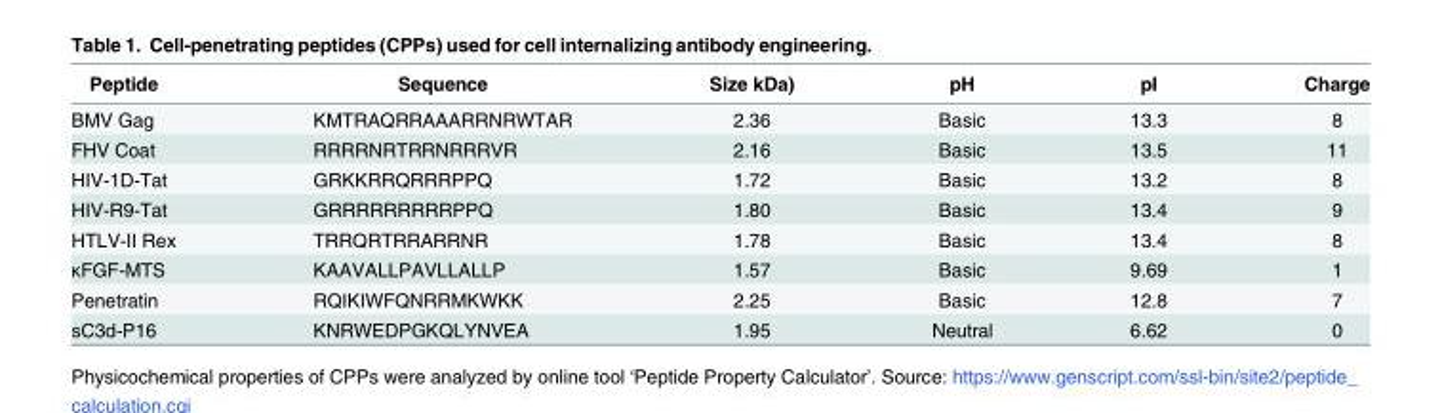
<table><thead><tr><td>Peptide</td><td>Sequence</td><td>Size kDa)</td><td>pH</td><td>pI</td><td>Charge</td></tr></thead><tbody><tr><td>BMV Gag</td><td>KMTRAQRRAAARRNRWTAR</td><td>2.36</td><td>Basic</td><td>13.3</td><td>8</td></tr><tr><td>FHV Coat</td><td>RRRRNRTRRNRRRVR</td><td>2.16</td><td>Basic</td><td>13.5</td><td>11</td></tr><tr><td>HIV-1D-Tat</td><td>GRKKRRQRRRPPQ</td><td>1.72</td><td>Basic</td><td>13.2</td><td>8</td></tr><tr><td>HIV-R9-Tat</td><td>GRRRRRRRRRPPQ</td><td>1.80</td><td>Basic</td><td>13.4</td><td>9</td></tr><tr><td>HTLV-II Rex</td><td>TRRQRTRRARRNR</td><td>1.78</td><td>Basic</td><td>13.4</td><td>8</td></tr><tr><td>κFGF-MTS</td><td>KAAVALLPAVLLALLP</td><td>1.57</td><td>Basic</td><td>9.69</td><td>1</td></tr><tr><td>Penetratin</td><td>RQIKIWFQNRRMKWKK</td><td>2.25</td><td>Basic</td><td>12.8</td><td>7</td></tr><tr><td>sC3d-P16</td><td>KNRWEDPGKQLYNVEA</td><td>1.95</td><td>Neutral</td><td>6.62</td><td>0</td></tr></tbody></table>